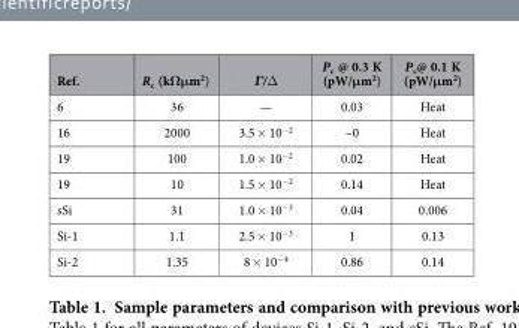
<table><thead><tr><td>Ref.</td><td>R<sub>c</sub> (kΩμm<sup>2</sup>)</td><td>Γ/Δ</td><td>P<sub>c</sub> @ 0.3 K (pW/μm<sup>2</sup>)</td><td>P<sub>c</sub>@ 0.1 K (pW/μm<sup>2</sup>)</td></tr></thead><tbody><tr><td>6</td><td>36</td><td>—</td><td>0.03</td><td>Heat</td></tr><tr><td>16</td><td>2000</td><td>3.5 × 10<sup>−2</sup></td><td>~0</td><td>Heat</td></tr><tr><td>19</td><td>100</td><td>1.0 × 10<sup>−2</sup></td><td>0.02</td><td>Heat</td></tr><tr><td>19</td><td>10</td><td>1.5 × 10<sup>−2</sup></td><td>0.14</td><td>Heat</td></tr><tr><td>sSi</td><td>31</td><td>1.0 × 10<sup>−3</sup></td><td>0.04</td><td>0.006</td></tr><tr><td>Si-1</td><td>1.1</td><td>2.5 × 10<sup>−3</sup></td><td>1</td><td>0.13</td></tr><tr><td>Si-2</td><td>1.35</td><td>8 × 10<sup>−4</sup></td><td>0.86</td><td>0.14</td></tr></tbody></table>